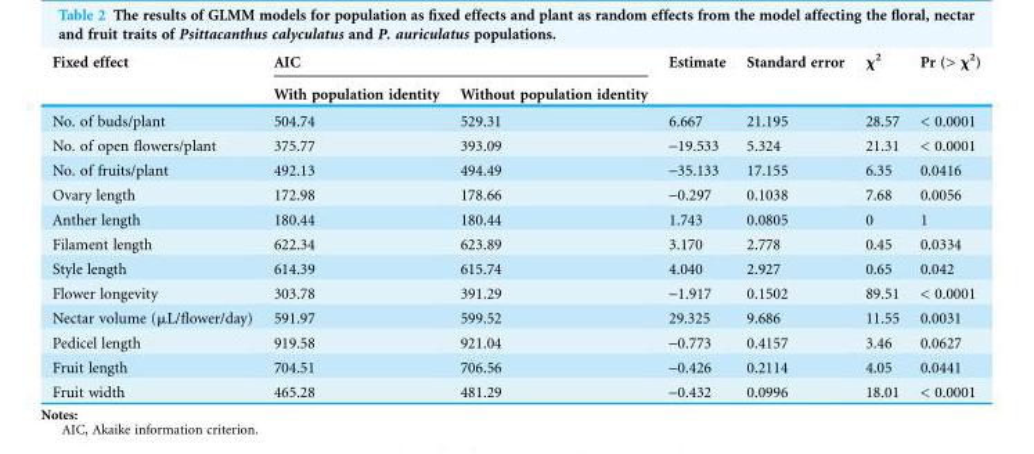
<table><thead><tr><td rowspan="2">Fixed effect</td><td colspan="2">AIC</td><td rowspan="2">Estimate</td><td rowspan="2">Standard error</td><td rowspan="2">χ<sup>2</sup></td><td rowspan="2">Pr (&gt; χ<sup>2</sup>)</td></tr><tr><td>With population identity</td><td>Without population identity</td></tr></thead><tbody><tr><td>No. of buds/plant</td><td>504.74</td><td>529.31</td><td>6.667</td><td>21.195</td><td>28.57</td><td>&lt; 0.0001</td></tr><tr><td>No. of open flowers/plant</td><td>375.77</td><td>393.09</td><td>-19.533</td><td>5.324</td><td>21.31</td><td>&lt; 0.0001</td></tr><tr><td>No. of fruits/plant</td><td>492.13</td><td>494.49</td><td>-35.133</td><td>17.155</td><td>6.35</td><td>0.0416</td></tr><tr><td>Ovary length</td><td>172.98</td><td>178.66</td><td>-0.297</td><td>0.1038</td><td>7.68</td><td>0.0056</td></tr><tr><td>Anther length</td><td>180.44</td><td>180.44</td><td>1.743</td><td>0.0805</td><td>0</td><td>1</td></tr><tr><td>Filament length</td><td>622.34</td><td>623.89</td><td>3.170</td><td>2.778</td><td>0.45</td><td>0.0334</td></tr><tr><td>Style length</td><td>614.39</td><td>615.74</td><td>4.040</td><td>2.927</td><td>0.65</td><td>0.042</td></tr><tr><td>Flower longevity</td><td>303.78</td><td>391.29</td><td>-1.917</td><td>0.1502</td><td>89.51</td><td>&lt; 0.0001</td></tr><tr><td>Nectar volume (μL/flower/day)</td><td>591.97</td><td>599.52</td><td>29.325</td><td>9.686</td><td>11.55</td><td>0.0031</td></tr><tr><td>Pedicel length</td><td>919.58</td><td>921.04</td><td>-0.773</td><td>0.4157</td><td>3.46</td><td>0.0627</td></tr><tr><td>Fruit length</td><td>704.51</td><td>706.56</td><td>-0.426</td><td>0.2114</td><td>4.05</td><td>0.0441</td></tr><tr><td>Fruit width</td><td>465.28</td><td>481.29</td><td>-0.432</td><td>0.0996</td><td>18.01</td><td>&lt; 0.0001</td></tr></tbody></table>